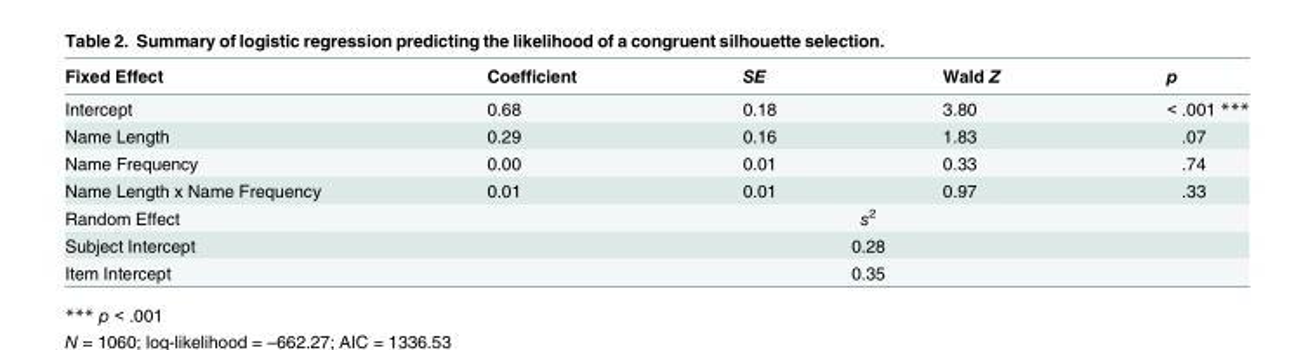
<table><thead><tr><td>Fixed Effect</td><td>Coefficient</td><td>SE</td><td>Wald Z</td><td>p</td></tr></thead><tbody><tr><td>Intercept</td><td>0.68</td><td>0.18</td><td>3.80</td><td>&lt; .001 ***</td></tr><tr><td>Name Length</td><td>0.29</td><td>0.16</td><td>1.83</td><td>.07</td></tr><tr><td>Name Frequency</td><td>0.00</td><td>0.01</td><td>0.33</td><td>.74</td></tr><tr><td>Name Length x Name Frequency</td><td>0.01</td><td>0.01</td><td>0.97</td><td>.33</td></tr><tr><td>Random Effect</td><td colspan="4">s<sup>2</sup></td></tr><tr><td>Subject Intercept</td><td colspan="4">0.28</td></tr><tr><td>Item Intercept</td><td colspan="4">0.35</td></tr></tbody></table>